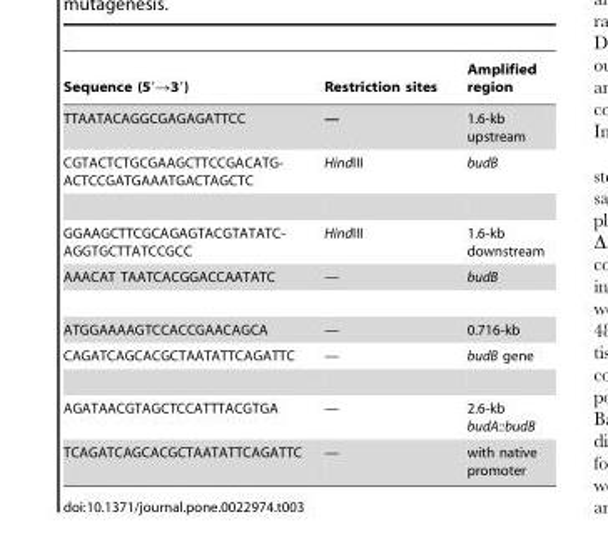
<table><thead><tr><td>Sequence (5′→3′)</td><td>Restriction sites</td><td>Amplified region</td></tr></thead><tbody><tr><td>TTAATACAGGCGAGAGATTCC</td><td>—</td><td>1.6-kb upstream</td></tr><tr><td>CGTACTCTGCGAAGCTTCCGACATG- ACTCCGATGAAATGACTAGCTC</td><td>HindIII</td><td>budB</td></tr><tr><td>GGAAGCTTCGCAGAGTACGTATATC- AGGTGCTTATCCGCC</td><td>HindIII</td><td>1.6-kb downstream</td></tr><tr><td>AAACAT TAATCACGGACCAATATC</td><td>—</td><td>budB</td></tr><tr><td>ATGGAAAAGTCCACCGAACAGCA</td><td>—</td><td>0.716-kb</td></tr><tr><td>CAGATCAGCACGCTAATATTCAGATTC</td><td>—</td><td>budB gene</td></tr><tr><td>AGATAACGTAGCTCCATTTACGTGA</td><td>—</td><td>2.6-kb budA::budB</td></tr><tr><td>TCAGATCAGCACGCTAATATTCAGATTC</td><td>—</td><td>with native promoter</td></tr></tbody></table>